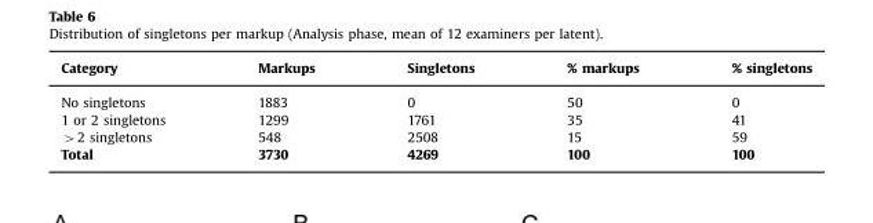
<table><thead><tr><td>Category</td><td>Markups</td><td>Singletons</td><td>% markups</td><td>% singletons</td></tr></thead><tbody><tr><td>No singletons</td><td>1883</td><td>0</td><td>50</td><td>0</td></tr><tr><td>1 or 2 singletons</td><td>1299</td><td>1761</td><td>35</td><td>41</td></tr><tr><td>&gt;2 singletons</td><td>548</td><td>2508</td><td>15</td><td>59</td></tr><tr><td>Total</td><td>3730</td><td>4269</td><td>100</td><td>100</td></tr></tbody></table>